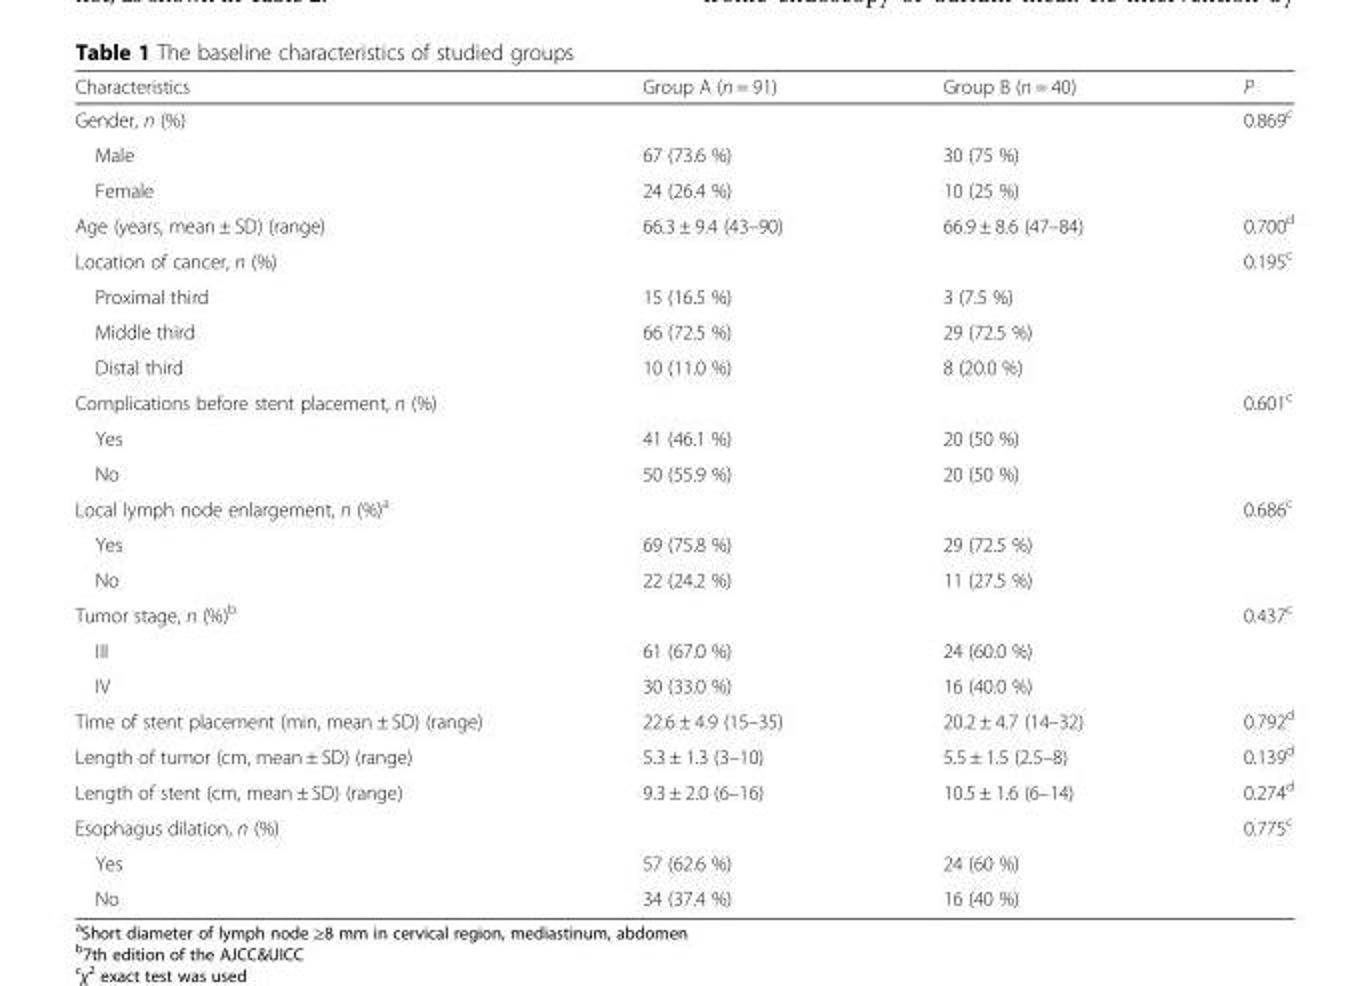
<table><thead><tr><td>Characteristics</td><td>Group A (n = 91)</td><td>Group B (n = 40)</td><td>P</td></tr></thead><tbody><tr><td>Gender, n (%)</td><td></td><td></td><td>0.869<sup>c</sup></td></tr><tr><td>Male</td><td>67 (73.6 %)</td><td>30 (75 %)</td><td></td></tr><tr><td>Female</td><td>24 (26.4 %)</td><td>10 (25 %)</td><td></td></tr><tr><td>Age (years, mean ± SD) (range)</td><td>66.3 ± 9.4 (43–90)</td><td>66.9 ± 8.6 (47–84)</td><td>0.700<sup>d</sup></td></tr><tr><td>Location of cancer, n (%)</td><td></td><td></td><td>0.195<sup>c</sup></td></tr><tr><td>Proximal third</td><td>15 (16.5 %)</td><td>3 (7.5 %)</td><td></td></tr><tr><td>Middle third</td><td>66 (72.5 %)</td><td>29 (72.5 %)</td><td></td></tr><tr><td>Distal third</td><td>10 (11.0 %)</td><td>8 (20.0 %)</td><td></td></tr><tr><td>Complications before stent placement, n (%)</td><td></td><td></td><td>0.601<sup>c</sup></td></tr><tr><td>Yes</td><td>41 (46.1 %)</td><td>20 (50 %)</td><td></td></tr><tr><td>No</td><td>50 (55.9 %)</td><td>20 (50 %)</td><td></td></tr><tr><td>Local lymph node enlargement, n (%)<sup>a</sup></td><td></td><td></td><td>0.686<sup>c</sup></td></tr><tr><td>Yes</td><td>69 (75.8 %)</td><td>29 (72.5 %)</td><td></td></tr><tr><td>No</td><td>22 (24.2 %)</td><td>11 (27.5 %)</td><td></td></tr><tr><td>Tumor stage, n (%)<sup>b</sup></td><td></td><td></td><td>0.437<sup>c</sup></td></tr><tr><td>III</td><td>61 (67.0 %)</td><td>24 (60.0 %)</td><td></td></tr><tr><td>IV</td><td>30 (33.0 %)</td><td>16 (40.0 %)</td><td></td></tr><tr><td>Time of stent placement (min, mean ± SD) (range)</td><td>22.6 ± 4.9 (15–35)</td><td>20.2 ± 4.7 (14–32)</td><td>0.792<sup>d</sup></td></tr><tr><td>Length of tumor (cm, mean ± SD) (range)</td><td>5.3 ± 1.3 (3–10)</td><td>5.5 ± 1.5 (2.5–8)</td><td>0.139<sup>d</sup></td></tr><tr><td>Length of stent (cm, mean ± SD) (range)</td><td>9.3 ± 2.0 (6–16)</td><td>10.5 ± 1.6 (6–14)</td><td>0.274<sup>d</sup></td></tr><tr><td>Esophagus dilation, n (%)</td><td></td><td></td><td>0.775<sup>c</sup></td></tr><tr><td>Yes</td><td>57 (62.6 %)</td><td>24 (60 %)</td><td></td></tr><tr><td>No</td><td>34 (37.4 %)</td><td>16 (40 %)</td><td></td></tr></tbody></table>